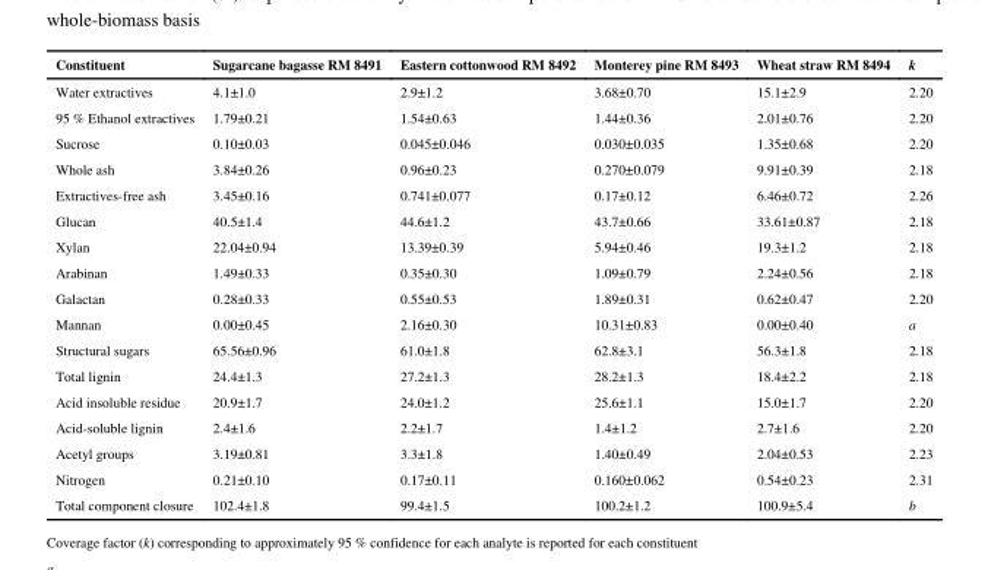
<table><thead><tr><td>Constituent</td><td>Sugarcane bagasse RM 8491</td><td>Eastern cottonwood RM 8492</td><td>Monterey pine RM 8493</td><td>Wheat straw RM 8494</td><td>k</td></tr></thead><tbody><tr><td>Water extractives</td><td>4.1±1.0</td><td>2.9±1.2</td><td>3.68±0.70</td><td>15.1±2.9</td><td>2.20</td></tr><tr><td>95 % Ethanol extractives</td><td>1.79±0.21</td><td>1.54±0.63</td><td>1.44±0.36</td><td>2.01±0.76</td><td>2.20</td></tr><tr><td>Sucrose</td><td>0.10±0.03</td><td>0.045±0.046</td><td>0.030±0.035</td><td>1.35±0.68</td><td>2.20</td></tr><tr><td>Whole ash</td><td>3.84±0.26</td><td>0.96±0.23</td><td>0.270±0.079</td><td>9.91±0.39</td><td>2.18</td></tr><tr><td>Extractives-free ash</td><td>3.45±0.16</td><td>0.741±0.077</td><td>0.17±0.12</td><td>6.46±0.72</td><td>2.26</td></tr><tr><td>Glucan</td><td>40.5±1.4</td><td>44.6±1.2</td><td>43.7±0.66</td><td>33.61±0.87</td><td>2.18</td></tr><tr><td>Xylan</td><td>22.04±0.94</td><td>13.39±0.39</td><td>5.94±0.46</td><td>19.3±1.2</td><td>2.18</td></tr><tr><td>Arabinan</td><td>1.49±0.33</td><td>0.35±0.30</td><td>1.09±0.79</td><td>2.24±0.56</td><td>2.18</td></tr><tr><td>Galactan</td><td>0.28±0.33</td><td>0.55±0.53</td><td>1.89±0.31</td><td>0.62±0.47</td><td>2.20</td></tr><tr><td>Mannan</td><td>0.00±0.45</td><td>2.16±0.30</td><td>10.31±0.83</td><td>0.00±0.40</td><td>a</td></tr><tr><td>Structural sugars</td><td>65.56±0.96</td><td>61.0±1.8</td><td>62.8±3.1</td><td>56.3±1.8</td><td>2.18</td></tr><tr><td>Total lignin</td><td>24.4±1.3</td><td>27.2±1.3</td><td>28.2±1.3</td><td>18.4±2.2</td><td>2.18</td></tr><tr><td>Acid insoluble residue</td><td>20.9±1.7</td><td>24.0±1.2</td><td>25.6±1.1</td><td>15.0±1.7</td><td>2.20</td></tr><tr><td>Acid-soluble lignin</td><td>2.4±1.6</td><td>2.2±1.7</td><td>1.4±1.2</td><td>2.7±1.6</td><td>2.20</td></tr><tr><td>Acetyl groups</td><td>3.19±0.81</td><td>3.3±1.8</td><td>1.40±0.49</td><td>2.04±0.53</td><td>2.23</td></tr><tr><td>Nitrogen</td><td>0.21±0.10</td><td>0.17±0.11</td><td>0.160±0.062</td><td>0.54±0.23</td><td>2.31</td></tr><tr><td>Total component closure</td><td>102.4±1.8</td><td>99.4±1.5</td><td>100.2±1.2</td><td>100.9±5.4</td><td>b</td></tr></tbody></table>